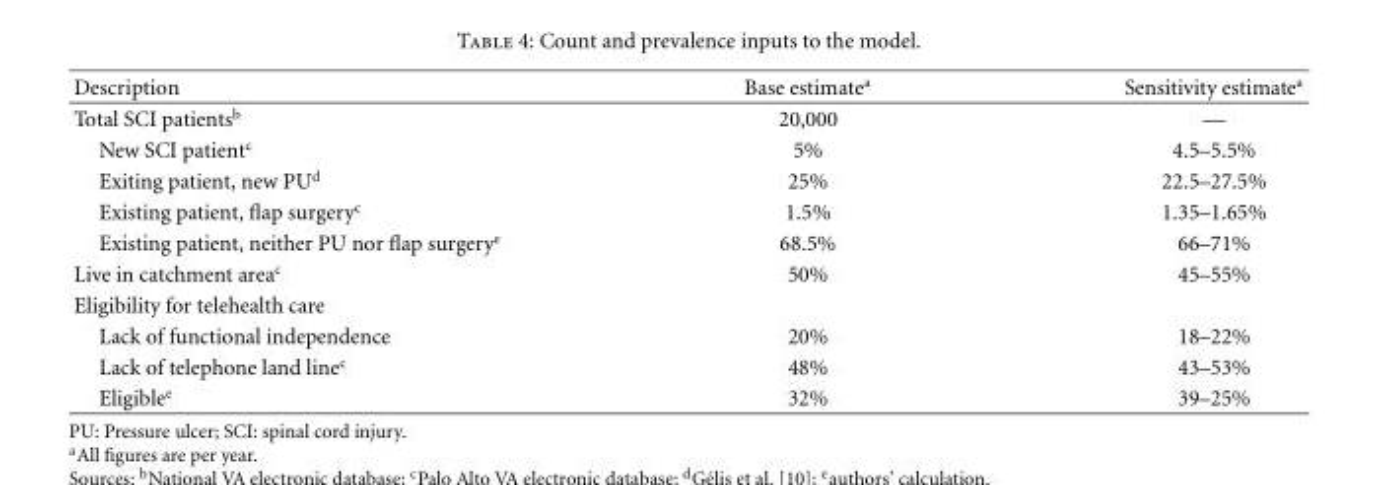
<table><thead><tr><td>Description</td><td>Base estimate<sup>a</sup></td><td>Sensitivity estimate<sup>a</sup></td></tr></thead><tbody><tr><td>Total SCI patients<sup>b</sup></td><td>20,000</td><td>—</td></tr><tr><td>New SCI patient<sup>c</sup></td><td>5%</td><td>4.5–5.5%</td></tr><tr><td>Exiting patient, new PU<sup>d</sup></td><td>25%</td><td>22.5–27.5%</td></tr><tr><td>Existing patient, flap surgery<sup>c</sup></td><td>1.5%</td><td>1.35–1.65%</td></tr><tr><td>Existing patient, neither PU nor flap surgery<sup>e</sup></td><td>68.5%</td><td>66–71%</td></tr><tr><td>Live in catchment area<sup>c</sup></td><td>50%</td><td>45–55%</td></tr><tr><td colspan="3">Eligibility for telehealth care</td></tr><tr><td>Lack of functional independence</td><td>20%</td><td>18–22%</td></tr><tr><td>Lack of telephone land line<sup>c</sup></td><td>48%</td><td>43–53%</td></tr><tr><td>Eligible<sup>e</sup></td><td>32%</td><td>39–25%</td></tr></tbody></table>